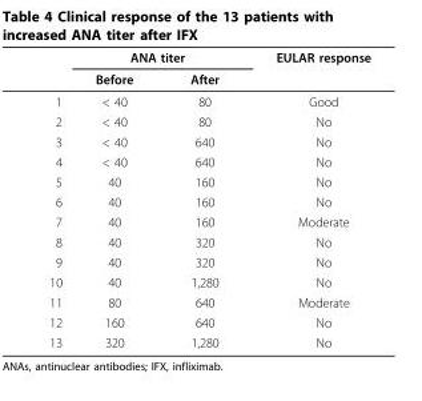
<table><thead><tr><td rowspan="2"></td><td colspan="2">ANA titer</td><td rowspan="2">EULAR response</td></tr><tr><td>Before</td><td>After</td></tr></thead><tbody><tr><td>1</td><td>&lt; 40</td><td>80</td><td>Good</td></tr><tr><td>2</td><td>&lt; 40</td><td>80</td><td>No</td></tr><tr><td>3</td><td>&lt; 40</td><td>640</td><td>No</td></tr><tr><td>4</td><td>&lt; 40</td><td>640</td><td>No</td></tr><tr><td>5</td><td>40</td><td>160</td><td>No</td></tr><tr><td>6</td><td>40</td><td>160</td><td>No</td></tr><tr><td>7</td><td>40</td><td>160</td><td>Moderate</td></tr><tr><td>8</td><td>40</td><td>320</td><td>No</td></tr><tr><td>9</td><td>40</td><td>320</td><td>No</td></tr><tr><td>10</td><td>40</td><td>1,280</td><td>No</td></tr><tr><td>11</td><td>80</td><td>640</td><td>Moderate</td></tr><tr><td>12</td><td>160</td><td>640</td><td>No</td></tr><tr><td>13</td><td>320</td><td>1,280</td><td>No</td></tr></tbody></table>